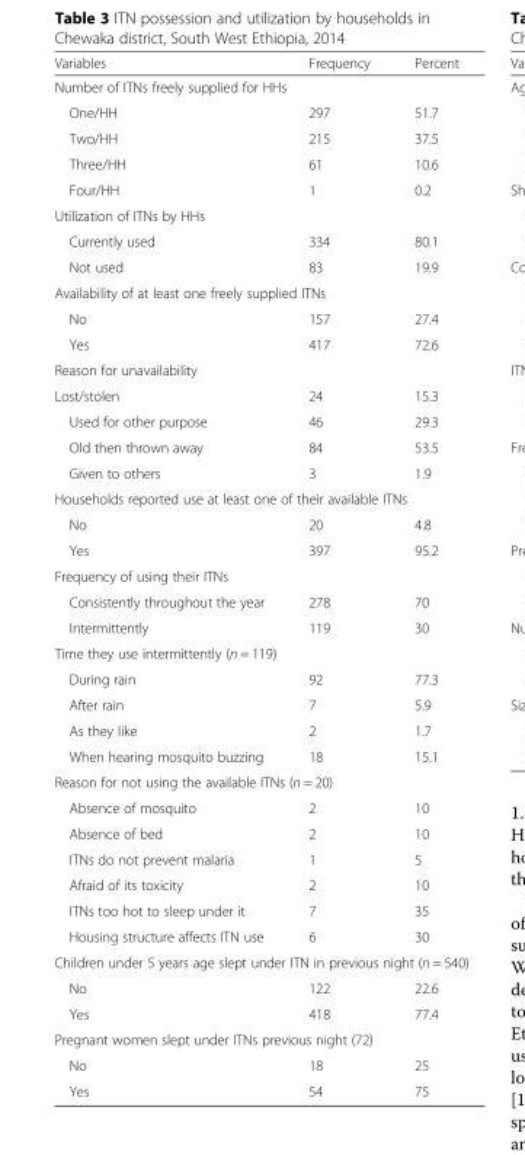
<table><thead><tr><td>Variables</td><td>Frequency</td><td>Percent</td></tr></thead><tbody><tr><td colspan="3">Number of ITNs freely supplied for HHs</td></tr><tr><td>One/HH</td><td>297</td><td>51.7</td></tr><tr><td>Two/HH</td><td>215</td><td>37.5</td></tr><tr><td>Three/HH</td><td>61</td><td>10.6</td></tr><tr><td>Four/HH</td><td>1</td><td>0.2</td></tr><tr><td colspan="3">Utilization of ITNs by HHs</td></tr><tr><td>Currently used</td><td>334</td><td>80.1</td></tr><tr><td>Not used</td><td>83</td><td>19.9</td></tr><tr><td colspan="3">Availability of at least one freely supplied ITNs</td></tr><tr><td>No</td><td>157</td><td>27.4</td></tr><tr><td>Yes</td><td>417</td><td>72.6</td></tr><tr><td colspan="3">Reason for unavailability</td></tr><tr><td>Lost/stolen</td><td>24</td><td>15.3</td></tr><tr><td>Used for other purpose</td><td>46</td><td>29.3</td></tr><tr><td>Old then thrown away</td><td>84</td><td>53.5</td></tr><tr><td>Given to others</td><td>3</td><td>1.9</td></tr><tr><td colspan="3">Households reported use at least one of their available ITNs</td></tr><tr><td>No</td><td>20</td><td>4.8</td></tr><tr><td>Yes</td><td>397</td><td>95.2</td></tr><tr><td colspan="3">Frequency of using their ITNs</td></tr><tr><td>Consistently throughout the year</td><td>278</td><td>70</td></tr><tr><td>Intermittently</td><td>119</td><td>30</td></tr><tr><td colspan="3">Time they use intermittently (n = 119)</td></tr><tr><td>During rain</td><td>92</td><td>77.3</td></tr><tr><td>After rain</td><td>7</td><td>5.9</td></tr><tr><td>As they like</td><td>2</td><td>1.7</td></tr><tr><td>When hearing mosquito buzzing</td><td>18</td><td>15.1</td></tr><tr><td colspan="3">Reason for not using the available ITNs (n = 20)</td></tr><tr><td>Absence of mosquito</td><td>2</td><td>10</td></tr><tr><td>Absence of bed</td><td>2</td><td>10</td></tr><tr><td>ITNs do not prevent malaria</td><td>1</td><td>5</td></tr><tr><td>Afraid of its toxicity</td><td>2</td><td>10</td></tr><tr><td>ITNs too hot to sleep under it</td><td>7</td><td>35</td></tr><tr><td>Housing structure affects ITN use</td><td>6</td><td>30</td></tr><tr><td colspan="3">Children under 5 years age slept under ITN in previous night (n = 540)</td></tr><tr><td>No</td><td>122</td><td>22.6</td></tr><tr><td>Yes</td><td>418</td><td>77.4</td></tr><tr><td colspan="3">Pregnant women slept under ITNs previous night (72)</td></tr><tr><td>No</td><td>18</td><td>25</td></tr><tr><td>Yes</td><td>54</td><td>75</td></tr></tbody></table>